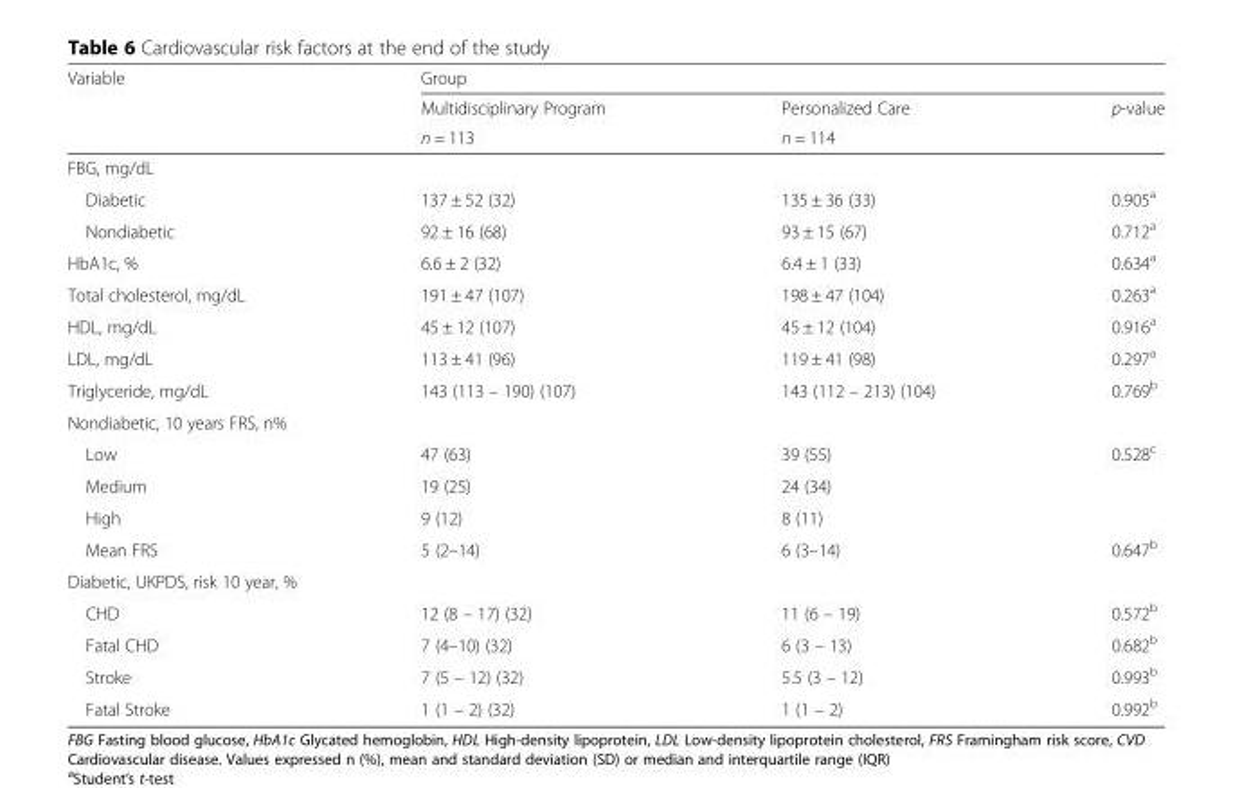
<table><thead><tr><td rowspan="3">Variable</td><td colspan="3">Group</td></tr><tr><td rowspan="2">Multidisciplinary Program n = 113</td><td rowspan="2">Personalized Care n = 114</td><td rowspan="2">p-value</td></tr><tr></tr></thead><tbody><tr><td colspan="4">FBG, mg/dL</td></tr><tr><td>Diabetic</td><td>137 ± 52 (32)</td><td>135 ± 36 (33)</td><td>0.905<sup>a</sup></td></tr><tr><td>Nondiabetic</td><td>92 ± 16 (68)</td><td>93 ± 15 (67)</td><td>0.712<sup>a</sup></td></tr><tr><td>HbA1c, %</td><td>6.6 ± 2 (32)</td><td>6.4 ± 1 (33)</td><td>0.634<sup>a</sup></td></tr><tr><td>Total cholesterol, mg/dL</td><td>191 ± 47 (107)</td><td>198 ± 47 (104)</td><td>0.263<sup>a</sup></td></tr><tr><td>HDL, mg/dL</td><td>45 ± 12 (107)</td><td>45 ± 12 (104)</td><td>0.916<sup>a</sup></td></tr><tr><td>LDL, mg/dL</td><td>113 ± 41 (96)</td><td>119 ± 41 (98)</td><td>0.297<sup>a</sup></td></tr><tr><td>Triglyceride, mg/dL</td><td>143 (113 – 190) (107)</td><td>143 (112 – 213) (104)</td><td>0.769<sup>b</sup></td></tr><tr><td colspan="4">Nondiabetic, 10 years FRS, n%</td></tr><tr><td>Low</td><td>47 (63)</td><td>39 (55)</td><td rowspan="3">0.528<sup>c</sup></td></tr><tr><td>Medium</td><td>19 (25)</td><td>24 (34)</td></tr><tr><td>High</td><td>9 (12)</td><td>8 (11)</td></tr><tr><td>Mean FRS</td><td>5 (2–14)</td><td>6 (3–14)</td><td>0.647<sup>b</sup></td></tr><tr><td colspan="4">Diabetic, UKPDS, risk 10 year, %</td></tr><tr><td>CHD</td><td>12 (8 – 17) (32)</td><td>11 (6 – 19)</td><td>0.572<sup>b</sup></td></tr><tr><td>Fatal CHD</td><td>7 (4–10) (32)</td><td>6 (3 – 13)</td><td>0.682<sup>b</sup></td></tr><tr><td>Stroke</td><td>7 (5 – 12) (32)</td><td>5.5 (3 – 12)</td><td>0.993<sup>b</sup></td></tr><tr><td>Fatal Stroke</td><td>1 (1 – 2) (32)</td><td>1 (1 – 2)</td><td>0.992<sup>b</sup></td></tr></tbody></table>